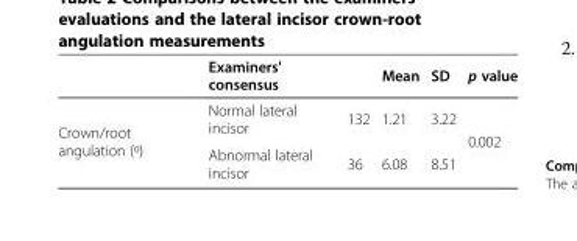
<table><thead><tr><td></td><td>Examiners&#x27; consensus</td><td></td><td>Mean</td><td>SD</td><td>p value</td></tr></thead><tbody><tr><td rowspan="2">Crown/root angulation (º)</td><td>Normal lateral incisor</td><td>132</td><td>1.21</td><td>3.22</td><td rowspan="2">0.002</td></tr><tr><td>Abnormal lateral incisor</td><td>36</td><td>6.08</td><td>8.51</td></tr></tbody></table>